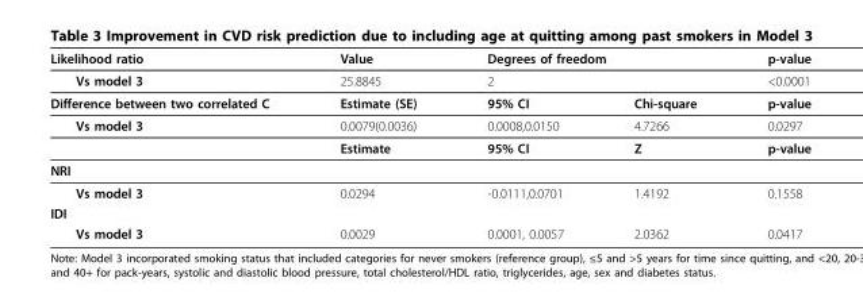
<table><thead><tr><td rowspan="3">Likelihood ratio Vs model 3 Difference between two correlated C</td><td rowspan="3">Value 25.8845 Estimate (SE)</td><td rowspan="2" colspan="2">Degrees of freedom 2</td><td rowspan="3">p-value &lt;0.0001 p-value</td></tr><tr></tr><tr><td>95% CI</td><td>Chi-square</td></tr></thead><tbody><tr><td rowspan="2">Vs model 3</td><td>0.0079(0.0036)</td><td>0.0008,0.0150</td><td>4.7266</td><td>0.0297</td></tr><tr><td>Estimate</td><td>95% CI</td><td>Z</td><td>p-value</td></tr><tr><td colspan="5">NRI</td></tr><tr><td>Vs model 3</td><td>0.0294</td><td>-0.0111,0.0701</td><td>1.4192</td><td>0.1558</td></tr><tr><td colspan="5">IDI</td></tr><tr><td>Vs model 3</td><td>0.0029</td><td>0.0001, 0.0057</td><td>2.0362</td><td>0.0417</td></tr></tbody></table>